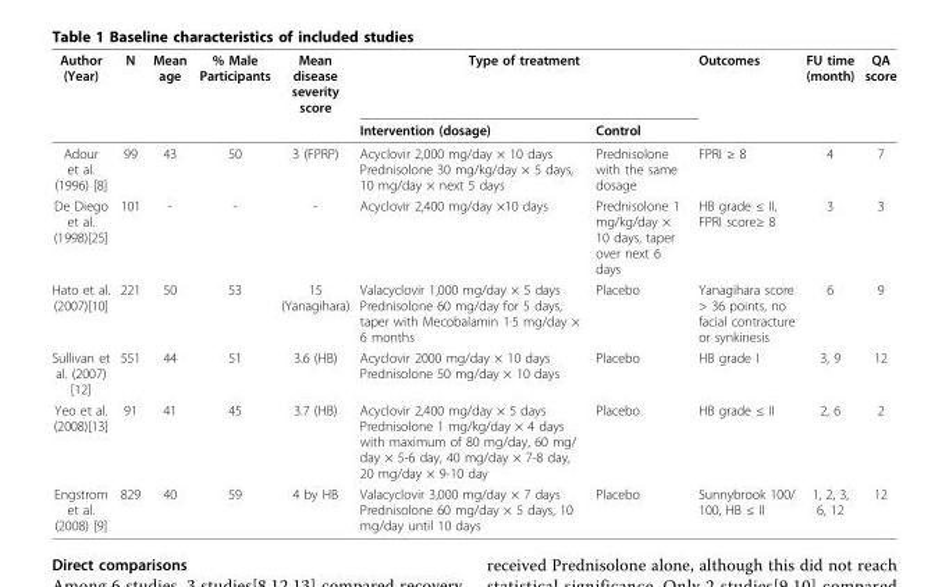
<table><thead><tr><td rowspan="2">Author (Year)</td><td rowspan="2">N</td><td rowspan="2">Mean age</td><td rowspan="2">% Male Participants</td><td rowspan="2">Mean disease severity score</td><td colspan="2">Type of treatment</td><td rowspan="2">Outcomes</td><td rowspan="2">FU time (month)</td><td rowspan="2">QA score</td></tr><tr><td>Intervention (dosage)</td><td>Control</td></tr></thead><tbody><tr><td>Adour et al. (1996) [8]</td><td>99</td><td>43</td><td>50</td><td>3 (FPRP)</td><td>Acyclovir 2,000 mg/day × 10 days Prednisolone 30 mg/kg/day × 5 days, 10 mg/day × next 5 days</td><td>Prednisolone with the same dosage</td><td>FPRI ≥ 8</td><td>4</td><td>7</td></tr><tr><td>De Diego et al. (1998)[25]</td><td>101</td><td>-</td><td>-</td><td>-</td><td>Acyclovir 2,400 mg/day ×10 days</td><td>Prednisolone 1 mg/kg/day × 10 days, taper over next 6 days</td><td>HB grade ≤ II, FPRI score≥ 8</td><td>3</td><td>3</td></tr><tr><td>Hato et al. (2007)[10]</td><td>221</td><td>50</td><td>53</td><td>15 (Yanagihara)</td><td>Valacyclovir 1,000 mg/day × 5 days Prednisolone 60 mg/day for 5 days, taper with Mecobalamin 1·5 mg/day × 6 months</td><td>Placebo</td><td>Yanagihara score &gt; 36 points, no facial contracture or synkinesis</td><td>6</td><td>9</td></tr><tr><td>Sullivan et al. (2007) [12]</td><td>551</td><td>44</td><td>51</td><td>3.6 (HB)</td><td>Acyclovir 2000 mg/day × 10 days Prednisolone 50 mg/day × 10 days</td><td>Placebo</td><td>HB grade I</td><td>3, 9</td><td>12</td></tr><tr><td>Yeo et al. (2008)[13]</td><td>91</td><td>41</td><td>45</td><td>3.7 (HB)</td><td>Acyclovir 2,400 mg/day × 5 days Prednisolone 1 mg/kg/day × 4 days with maximum of 80 mg/day, 60 mg/ day × 5-6 day, 40 mg/day × 7-8 day, 20 mg/day × 9-10 day</td><td>Placebo</td><td>HB grade ≤ II</td><td>2, 6</td><td>2</td></tr><tr><td>Engstrom et al. (2008) [9]</td><td>829</td><td>40</td><td>59</td><td>4 by HB</td><td>Valacyclovir 3,000 mg/day × 7 days Prednisolone 60 mg/day × 5 days, 10 mg/day until 10 days</td><td>Placebo</td><td>Sunnybrook 100/ 100, HB ≤ II</td><td>1, 2, 3, 6, 12</td><td>12</td></tr></tbody></table>